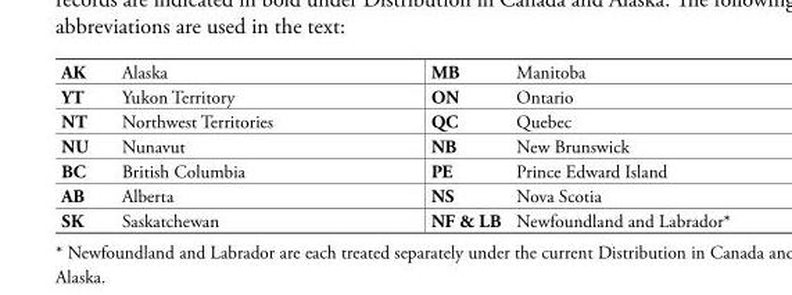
<table><tbody><tr><td>AK</td><td>Alaska</td><td>MB</td><td>Manitoba</td></tr><tr><td>YT</td><td>Yukon Territory</td><td>ON</td><td>Ontario</td></tr><tr><td>NT</td><td>Northwest Territories</td><td>QC</td><td>Quebec</td></tr><tr><td>NU</td><td>Nunavut</td><td>NB</td><td>New Brunswick</td></tr><tr><td>BC</td><td>British Columbia</td><td>PE</td><td>Prince Edward Island</td></tr><tr><td>AB</td><td>Alberta</td><td>NS</td><td>Nova Scotia</td></tr><tr><td>SK</td><td>Saskatchewan</td><td>NF &amp; LB</td><td>Newfoundland and Labrador*</td></tr></tbody></table>